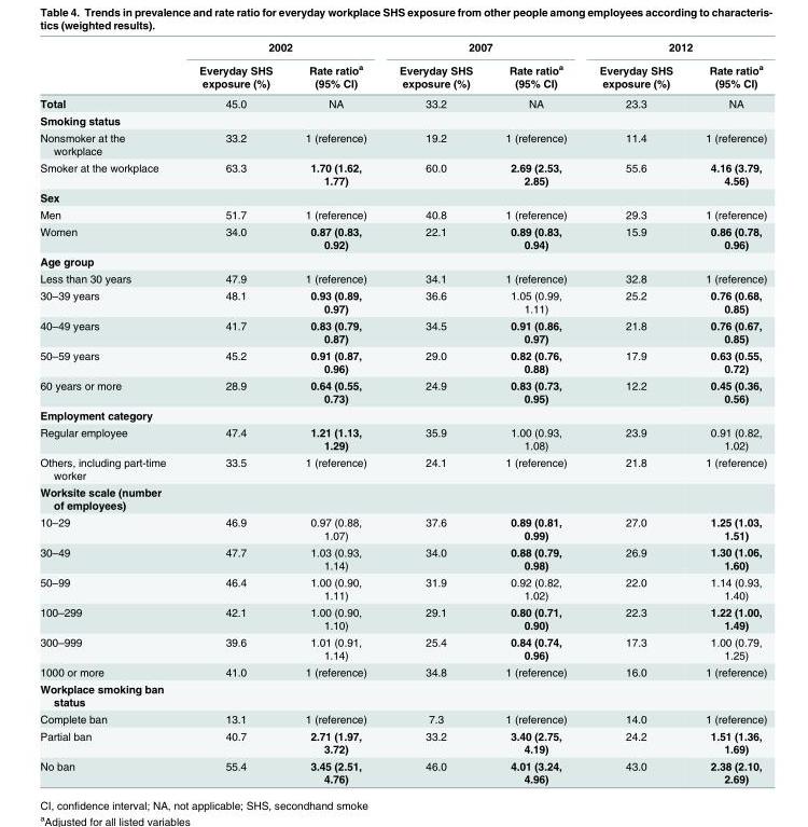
<table><thead><tr><td rowspan="2"></td><td colspan="2">2002</td><td colspan="2">2007</td><td colspan="2">2012</td></tr><tr><td>Everyday SHS exposure (%)</td><td>Rate ratio<sup>a</sup> (95% CI)</td><td>Everyday SHS exposure (%)</td><td>Rate ratio<sup>a</sup> (95% CI)</td><td>Everyday SHS exposure (%)</td><td>Rate ratio<sup>a</sup> (95% CI)</td></tr></thead><tbody><tr><td>Total</td><td>45.0</td><td>NA</td><td>33.2</td><td>NA</td><td>23.3</td><td>NA</td></tr><tr><td colspan="7">Smoking status</td></tr><tr><td>Nonsmoker at the workplace</td><td>33.2</td><td>1 (reference)</td><td>19.2</td><td>1 (reference)</td><td>11.4</td><td>1 (reference)</td></tr><tr><td>Smoker at the workplace</td><td>63.3</td><td>1.70 (1.62, 1.77)</td><td>60.0</td><td>2.69 (2.53, 2.85)</td><td>55.6</td><td>4.16 (3.79, 4.56)</td></tr><tr><td colspan="7">Sex</td></tr><tr><td>Men</td><td>51.7</td><td>1 (reference)</td><td>40.8</td><td>1 (reference)</td><td>29.3</td><td>1 (reference)</td></tr><tr><td>Women</td><td>34.0</td><td>0.87 (0.83, 0.92)</td><td>22.1</td><td>0.89 (0.83, 0.94)</td><td>15.9</td><td>0.86 (0.78, 0.96)</td></tr><tr><td colspan="7">Age group</td></tr><tr><td>Less than 30 years</td><td>47.9</td><td>1 (reference)</td><td>34.1</td><td>1 (reference)</td><td>32.8</td><td>1 (reference)</td></tr><tr><td>30–39 years</td><td>48.1</td><td>0.93 (0.89, 0.97)</td><td>36.6</td><td>1.05 (0.99, 1.11)</td><td>25.2</td><td>0.76 (0.68, 0.85)</td></tr><tr><td>40–49 years</td><td>41.7</td><td>0.83 (0.79, 0.87)</td><td>34.5</td><td>0.91 (0.86, 0.97)</td><td>21.8</td><td>0.76 (0.67, 0.85)</td></tr><tr><td>50–59 years</td><td>45.2</td><td>0.91 (0.87, 0.96)</td><td>29.0</td><td>0.82 (0.76, 0.88)</td><td>17.9</td><td>0.63 (0.55, 0.72)</td></tr><tr><td>60 years or more</td><td>28.9</td><td>0.64 (0.55, 0.73)</td><td>24.9</td><td>0.83 (0.73, 0.95)</td><td>12.2</td><td>0.45 (0.36, 0.56)</td></tr><tr><td colspan="7">Employment category</td></tr><tr><td>Regular employee</td><td>47.4</td><td>1.21 (1.13, 1.29)</td><td>35.9</td><td>1.00 (0.93, 1.08)</td><td>23.9</td><td>0.91 (0.82, 1.02)</td></tr><tr><td>Others, including part-time worker</td><td>33.5</td><td>1 (reference)</td><td>24.1</td><td>1 (reference)</td><td>21.8</td><td>1 (reference)</td></tr><tr><td colspan="7">Worksite scale (number of employees)</td></tr><tr><td>10–29</td><td>46.9</td><td>0.97 (0.88, 1.07)</td><td>37.6</td><td>0.89 (0.81, 0.99)</td><td>27.0</td><td>1.25 (1.03, 1.51)</td></tr><tr><td>30–49</td><td>47.7</td><td>1.03 (0.93, 1.14)</td><td>34.0</td><td>0.88 (0.79, 0.98)</td><td>26.9</td><td>1.30 (1.06, 1.60)</td></tr><tr><td>50–99</td><td>46.4</td><td>1.00 (0.90, 1.11)</td><td>31.9</td><td>0.92 (0.82, 1.02)</td><td>22.0</td><td>1.14 (0.93, 1.40)</td></tr><tr><td>100–299</td><td>42.1</td><td>1.00 (0.90, 1.10)</td><td>29.1</td><td>0.80 (0.71, 0.90)</td><td>22.3</td><td>1.22 (1.00, 1.49)</td></tr><tr><td>300–999</td><td>39.6</td><td>1.01 (0.91, 1.14)</td><td>25.4</td><td>0.84 (0.74, 0.96)</td><td>17.3</td><td>1.00 (0.79, 1.25)</td></tr><tr><td>1000 or more</td><td>41.0</td><td>1 (reference)</td><td>34.8</td><td>1 (reference)</td><td>16.0</td><td>1 (reference)</td></tr><tr><td colspan="7">Workplace smoking ban status</td></tr><tr><td>Complete ban</td><td>13.1</td><td>1 (reference)</td><td>7.3</td><td>1 (reference)</td><td>14.0</td><td>1 (reference)</td></tr><tr><td>Partial ban</td><td>40.7</td><td>2.71 (1.97, 3.72)</td><td>33.2</td><td>3.40 (2.75, 4.19)</td><td>24.2</td><td>1.51 (1.36, 1.69)</td></tr><tr><td>No ban</td><td>55.4</td><td>3.45 (2.51, 4.76)</td><td>46.0</td><td>4.01 (3.24, 4.96)</td><td>43.0</td><td>2.38 (2.10, 2.69)</td></tr></tbody></table>